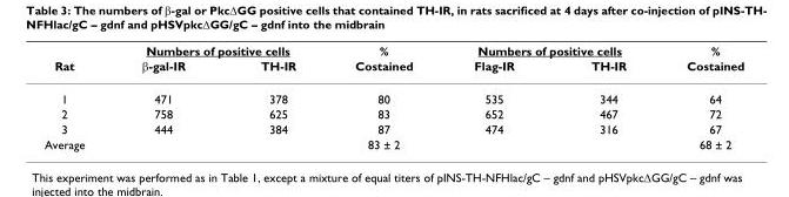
<table><thead><tr><td rowspan="2">Rat</td><td colspan="2">Numbers of positive cells</td><td rowspan="2">% Costained</td><td colspan="2">Numbers of positive cells</td><td rowspan="2">% Costained</td></tr><tr><td>β-gal-IR</td><td>TH-IR</td><td>Flag-IR</td><td>TH-IR</td></tr></thead><tbody><tr><td>1</td><td>471</td><td>378</td><td>80</td><td>535</td><td>344</td><td>64</td></tr><tr><td>2</td><td>758</td><td>625</td><td>83</td><td>652</td><td>467</td><td>72</td></tr><tr><td>3</td><td>444</td><td>384</td><td>87</td><td>474</td><td>316</td><td>67</td></tr><tr><td>Average</td><td></td><td></td><td>83 ± 2</td><td></td><td></td><td>68 ± 2</td></tr></tbody></table>